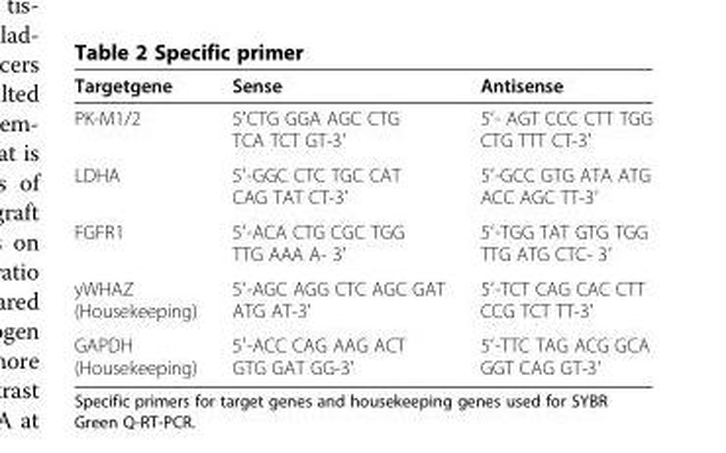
<table><thead><tr><td>Targetgene</td><td>Sense</td><td>Antisense</td></tr></thead><tbody><tr><td>PK-M1/2</td><td>5′CTG GGA AGC CTG TCA TCT GT-3′</td><td>5′- AGT CCC CTT TGG CTG TTT CT-3′</td></tr><tr><td>LDHA</td><td>5′-GGC CTC TGC CAT CAG TAT CT-3′</td><td>5′-GCC GTG ATA ATG ACC AGC TT-3′</td></tr><tr><td>FGFR1</td><td>5′-ACA CTG CGC TGG TTG AAA A- 3′</td><td>5′-TGG TAT GTG TGG TTG ATG CTC- 3′</td></tr><tr><td>yWHAZ (Housekeeping)</td><td>5′-AGC AGG CTC AGC GAT ATG AT-3′</td><td>5′-TCT CAG CAC CTT CCG TCT TT-3′</td></tr><tr><td>GAPDH (Housekeeping)</td><td>5′-ACC CAG AAG ACT GTG GAT GG-3′</td><td>5′-TTC TAG ACG GCA GGT CAG GT-3′</td></tr></tbody></table>